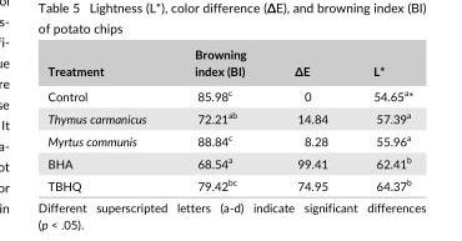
<table><thead><tr><td>Treatment</td><td>Browning index (BI)</td><td>∆E</td><td>L*</td></tr></thead><tbody><tr><td>Control</td><td>85.98<sup>c</sup></td><td>0</td><td>54.65<sup>a</sup>*</td></tr><tr><td>Thymus carmanicus</td><td>72.21<sup>ab</sup></td><td>14.84</td><td>57.39<sup>a</sup></td></tr><tr><td>Myrtus communis</td><td>88.84<sup>c</sup></td><td>8.28</td><td>55.96<sup>a</sup></td></tr><tr><td>BHA</td><td>68.54<sup>a</sup></td><td>99.41</td><td>62.41<sup>b</sup></td></tr><tr><td>TBHQ</td><td>79.42<sup>bc</sup></td><td>74.95</td><td>64.37<sup>b</sup></td></tr></tbody></table>